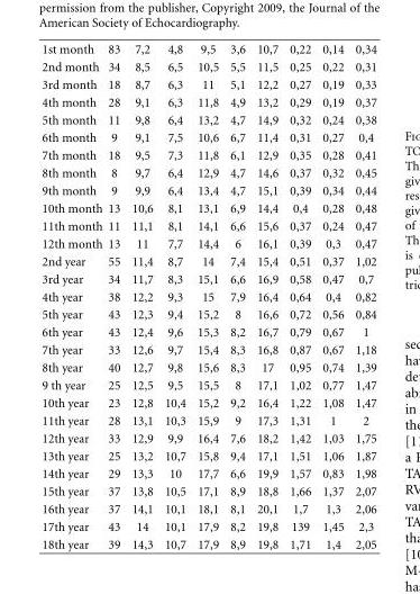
<table><tbody><tr><td>1st month</td><td>83</td><td>7,2</td><td>4,8</td><td>9,5</td><td>3,6</td><td>10,7</td><td>0,22</td><td>0,14</td><td>0,34</td></tr><tr><td>2nd month</td><td>34</td><td>8,5</td><td>6,5</td><td>10,5</td><td>5,5</td><td>11,5</td><td>0,25</td><td>0,22</td><td>0,31</td></tr><tr><td>3rd month</td><td>18</td><td>8,7</td><td>6,3</td><td>11</td><td>5,1</td><td>12,2</td><td>0,27</td><td>0,19</td><td>0,33</td></tr><tr><td>4th month</td><td>28</td><td>9,1</td><td>6,3</td><td>11,8</td><td>4,9</td><td>13,2</td><td>0,29</td><td>0,19</td><td>0,37</td></tr><tr><td>5th month</td><td>11</td><td>9,8</td><td>6,4</td><td>13,2</td><td>4,7</td><td>14,9</td><td>0,32</td><td>0,24</td><td>0,38</td></tr><tr><td>6th month</td><td>9</td><td>9,1</td><td>7,5</td><td>10,6</td><td>6,7</td><td>11,4</td><td>0,31</td><td>0,27</td><td>0,4</td></tr><tr><td>7th month</td><td>18</td><td>9,5</td><td>7,3</td><td>11,8</td><td>6,1</td><td>12,9</td><td>0,35</td><td>0,28</td><td>0,41</td></tr><tr><td>8th month</td><td>8</td><td>9,7</td><td>6,4</td><td>12,9</td><td>4,7</td><td>14,6</td><td>0,37</td><td>0,32</td><td>0,45</td></tr><tr><td>9th month</td><td>9</td><td>9,9</td><td>6,4</td><td>13,4</td><td>4,7</td><td>15,1</td><td>0,39</td><td>0,34</td><td>0,44</td></tr><tr><td>10th month</td><td>13</td><td>10,6</td><td>8,1</td><td>13,1</td><td>6,9</td><td>14,4</td><td>0,4</td><td>0,28</td><td>0,48</td></tr><tr><td>11th month</td><td>11</td><td>11,1</td><td>8,1</td><td>14,1</td><td>6,6</td><td>15,6</td><td>0,37</td><td>0,24</td><td>0,47</td></tr><tr><td>12th month</td><td>13</td><td>11</td><td>7,7</td><td>14,4</td><td>6</td><td>16,1</td><td>0,39</td><td>0,3</td><td>0,47</td></tr><tr><td>2nd year</td><td>55</td><td>11,4</td><td>8,7</td><td>14</td><td>7,4</td><td>15,4</td><td>0,51</td><td>0,37</td><td>1,02</td></tr><tr><td>3rd year</td><td>34</td><td>11,7</td><td>8,3</td><td>15,1</td><td>6,6</td><td>16,9</td><td>0,58</td><td>0,47</td><td>0,7</td></tr><tr><td>4th year</td><td>38</td><td>12,2</td><td>9,3</td><td>15</td><td>7,9</td><td>16,4</td><td>0,64</td><td>0,4</td><td>0,82</td></tr><tr><td>5th year</td><td>43</td><td>12,3</td><td>9,4</td><td>15,2</td><td>8</td><td>16,6</td><td>0,72</td><td>0,56</td><td>0,84</td></tr><tr><td>6th year</td><td>43</td><td>12,4</td><td>9,6</td><td>15,3</td><td>8,2</td><td>16,7</td><td>0,79</td><td>0,67</td><td>1</td></tr><tr><td>7th year</td><td>33</td><td>12,6</td><td>9,7</td><td>15,4</td><td>8,3</td><td>16,8</td><td>0,87</td><td>0,67</td><td>1,18</td></tr><tr><td>8th year</td><td>40</td><td>12,7</td><td>9,8</td><td>15,6</td><td>8,3</td><td>17</td><td>0,95</td><td>0,74</td><td>1,39</td></tr><tr><td>9 th year</td><td>25</td><td>12,5</td><td>9,5</td><td>15,5</td><td>8</td><td>17,1</td><td>1,02</td><td>0,77</td><td>1,47</td></tr><tr><td>10th year</td><td>23</td><td>12,8</td><td>10,4</td><td>15,2</td><td>9,2</td><td>16,4</td><td>1,22</td><td>1,08</td><td>1,47</td></tr><tr><td>11th year</td><td>28</td><td>13,1</td><td>10,3</td><td>15,9</td><td>9</td><td>17,3</td><td>1,31</td><td>1</td><td>2</td></tr><tr><td>12th year</td><td>33</td><td>12,9</td><td>9,9</td><td>16,4</td><td>7,6</td><td>18,2</td><td>1,42</td><td>1,03</td><td>1,75</td></tr><tr><td>13th year</td><td>25</td><td>13,2</td><td>10,7</td><td>15,8</td><td>9,4</td><td>17,1</td><td>1,51</td><td>1,06</td><td>1,87</td></tr><tr><td>14th year</td><td>29</td><td>13,3</td><td>10</td><td>17,7</td><td>6,6</td><td>19,9</td><td>1,57</td><td>0,83</td><td>1,98</td></tr><tr><td>15th year</td><td>37</td><td>13,8</td><td>10,5</td><td>17,1</td><td>8,9</td><td>18,8</td><td>1,66</td><td>1,37</td><td>2,07</td></tr><tr><td>16th year</td><td>37</td><td>14,1</td><td>10,1</td><td>18,1</td><td>8,1</td><td>20,1</td><td>1,7</td><td>1,3</td><td>2,06</td></tr><tr><td>17th year</td><td>43</td><td>14</td><td>10,1</td><td>17,9</td><td>8,2</td><td>19,8</td><td>139</td><td>1,45</td><td>2,3</td></tr><tr><td>18th year</td><td>39</td><td>14,3</td><td>10,7</td><td>17,9</td><td>8,9</td><td>19,8</td><td>1,71</td><td>1,4</td><td>2,05</td></tr></tbody></table>